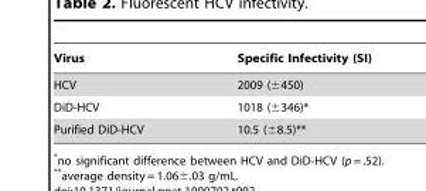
<table><thead><tr><td>Virus</td><td>Specific Infectivity (SI)</td></tr></thead><tbody><tr><td>HCV</td><td>2009 (±450)</td></tr><tr><td>DiD-HCV</td><td>1018 (±346)*</td></tr><tr><td>Purified DiD-HCV</td><td>10.5 (±8.5)**</td></tr></tbody></table>